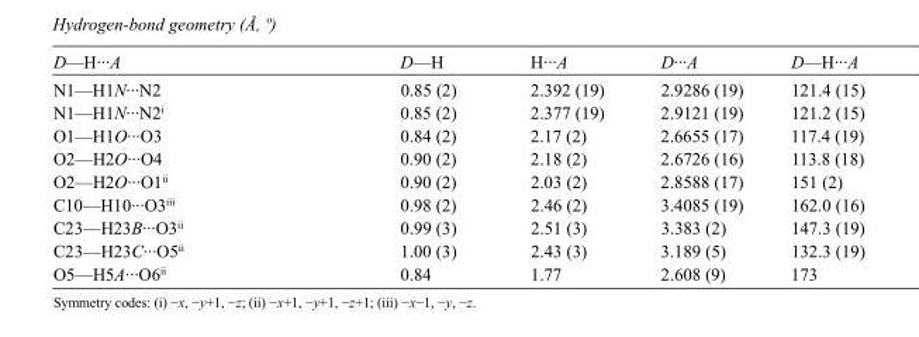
<table><tbody><tr><td>D—H···A</td><td>D—H</td><td>H···A</td><td>D···A</td><td>D—H···A</td></tr><tr><td>N1—H1N···N2</td><td>0.85 (2)</td><td>2.392 (19)</td><td>2.9286 (19)</td><td>121.4 (15)</td></tr><tr><td>N1—H1N···N2<sup>i</sup></td><td>0.85 (2)</td><td>2.377 (19)</td><td>2.9121 (19)</td><td>121.2 (15)</td></tr><tr><td>O1—H1O···O3</td><td>0.84 (2)</td><td>2.17 (2)</td><td>2.6655 (17)</td><td>117.4 (19)</td></tr><tr><td>O2—H2O···O4</td><td>0.90 (2)</td><td>2.18 (2)</td><td>2.6726 (16)</td><td>113.8 (18)</td></tr><tr><td>O2—H2O···O1<sup>ii</sup></td><td>0.90 (2)</td><td>2.03 (2)</td><td>2.8588 (17)</td><td>151 (2)</td></tr><tr><td>C10—H10···O3<sup>iii</sup></td><td>0.98 (2)</td><td>2.46 (2)</td><td>3.4085 (19)</td><td>162.0 (16)</td></tr><tr><td>C23—H23B···O3<sup>ii</sup></td><td>0.99 (3)</td><td>2.51 (3)</td><td>3.383 (2)</td><td>147.3 (19)</td></tr><tr><td>C23—H23C···O5<sup>ii</sup></td><td>1.00 (3)</td><td>2.43 (3)</td><td>3.189 (5)</td><td>132.3 (19)</td></tr><tr><td>O5—H5A···O6<sup>ii</sup></td><td>0.84</td><td>1.77</td><td>2.608 (9)</td><td>173</td></tr></tbody></table>